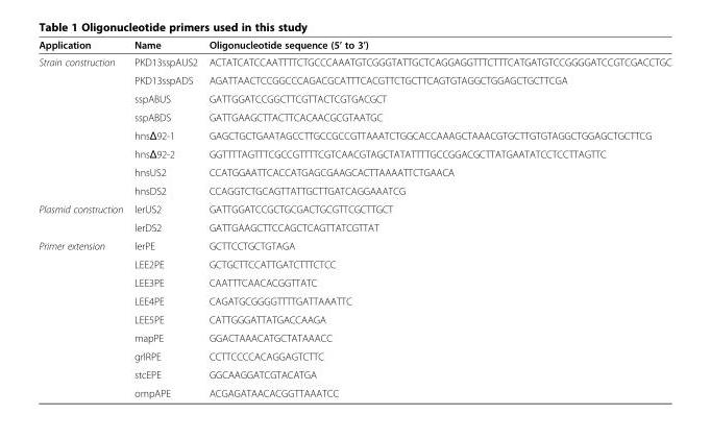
<table><thead><tr><td>Application</td><td>Name</td><td>Oligonucleotide sequence (5’ to 3’)</td></tr></thead><tbody><tr><td rowspan="8">Strain construction</td><td>PKD13sspAUS2</td><td>ACTATCATCCAATTTTCTGCCCAAATGTCGGGTATTGCTCAGGAGGTTTCTTTCATGATGTCCGGGGATCCGTCGACCTGC</td></tr><tr><td>PKD13sspADS</td><td>AGATTAACTCCGGCCCAGACGCATTTCACGTTCTGCTTCAGTGTAGGCTGGAGCTGCTTCGA</td></tr><tr><td>sspABUS</td><td>GATTGGATCCGGCTTCGTTACTCGTGACGCT</td></tr><tr><td>sspABDS</td><td>GATTGAAGCTTACTTCACAACGCGTAATGC</td></tr><tr><td>hnsΔ92-1</td><td>GAGCTGCTGAATAGCCTTGCCGCCGTTAAATCTGGCACCAAAGCTAAACGTGCTTGTGTAGGCTGGAGCTGCTTCG</td></tr><tr><td>hnsΔ92-2</td><td>GGTTTTAGTTTCGCCGTTTTCGTCAACGTAGCTATATTTTGCCGGACGCTTATGAATATCCTCCTTAGTTC</td></tr><tr><td>hnsUS2</td><td>CCATGGAATTCACCATGAGCGAAGCACTTAAAATTCTGAACA</td></tr><tr><td>hnsDS2</td><td>CCAGGTCTGCAGTTATTGCTTGATCAGGAAATCG</td></tr><tr><td rowspan="2">Plasmid construction</td><td>lerUS2</td><td>GATTGGATCCGCTGCGACTGCGTTCGCTTGCT</td></tr><tr><td>lerDS2</td><td>GATTGAAGCTTCCAGCTCAGTTATCGTTAT</td></tr><tr><td rowspan="9">Primer extension</td><td>lerPE</td><td>GCTTCCTGCTGTAGA</td></tr><tr><td>LEE2PE</td><td>GCTGCTTCCATTGATCTTTCTCC</td></tr><tr><td>LEE3PE</td><td>CAATTTCAACACGGTTATC</td></tr><tr><td>LEE4PE</td><td>CAGATGCGGGGTTTTGATTAAATTC</td></tr><tr><td>LEE5PE</td><td>CATTGGGATTATGACCAAGA</td></tr><tr><td>mapPE</td><td>GGACTAAACATGCTATAAACC</td></tr><tr><td>grlRPE</td><td>CCTTCCCCACAGGAGTCTTC</td></tr><tr><td>stcEPE</td><td>GGCAAGGATCGTACATGA</td></tr><tr><td>ompAPE</td><td>ACGAGATAACACGGTTAAATCC</td></tr></tbody></table>